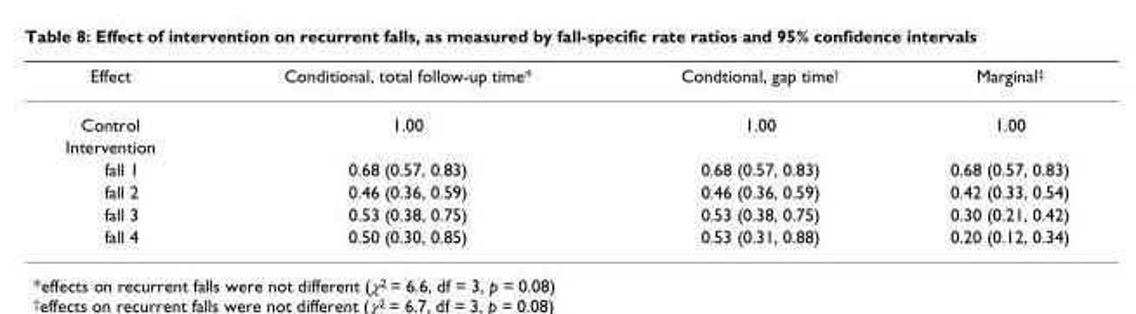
<table><thead><tr><td>Effect</td><td>Conditional, total follow-up time*</td><td>Condtional, gap time<sup>†</sup></td><td>Marginal<sup>‡</sup></td></tr></thead><tbody><tr><td>Control</td><td>1.00</td><td>1.00</td><td>1.00</td></tr><tr><td colspan="4">Intervention</td></tr><tr><td>fall 1</td><td>0.68 (0.57, 0.83)</td><td>0.68 (0.57, 0.83)</td><td>0.68 (0.57, 0.83)</td></tr><tr><td>fall 2</td><td>0.46 (0.36, 0.59)</td><td>0.46 (0.36, 0.59)</td><td>0.42 (0.33, 0.54)</td></tr><tr><td>fall 3</td><td>0.53 (0.38, 0.75)</td><td>0.53 (0.38, 0.75)</td><td>0.30 (0.21, 0.42)</td></tr><tr><td>fall 4</td><td>0.50 (0.30, 0.85)</td><td>0.53 (0.31, 0.88)</td><td>0.20 (0.12, 0.34)</td></tr></tbody></table>